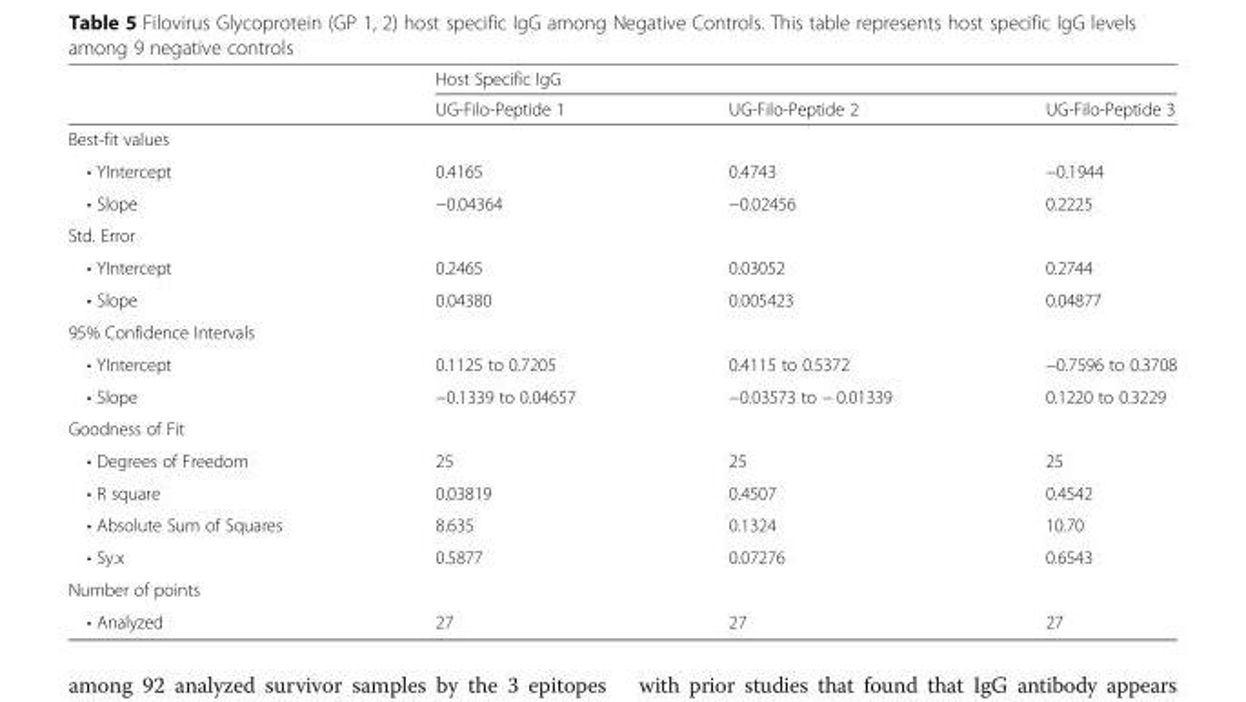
<table><thead><tr><td rowspan="2"></td><td colspan="3">Host Specific IgG</td></tr><tr><td>UG-Filo-Peptide 1</td><td>UG-Filo-Peptide 2</td><td>UG-Filo-Peptide 3</td></tr></thead><tbody><tr><td colspan="4">Best-fit values</td></tr><tr><td>• YIntercept</td><td>0.4165</td><td>0.4743</td><td>−0.1944</td></tr><tr><td>• Slope</td><td>−0.04364</td><td>−0.02456</td><td>0.2225</td></tr><tr><td colspan="4">Std. Error</td></tr><tr><td>• YIntercept</td><td>0.2465</td><td>0.03052</td><td>0.2744</td></tr><tr><td>• Slope</td><td>0.04380</td><td>0.005423</td><td>0.04877</td></tr><tr><td colspan="4">95% Confidence Intervals</td></tr><tr><td>• YIntercept</td><td>0.1125 to 0.7205</td><td>0.4115 to 0.5372</td><td>−0.7596 to 0.3708</td></tr><tr><td>• Slope</td><td>−0.1339 to 0.04657</td><td>−0.03573 to − 0.01339</td><td>0.1220 to 0.3229</td></tr><tr><td colspan="4">Goodness of Fit</td></tr><tr><td>• Degrees of Freedom</td><td>25</td><td>25</td><td>25</td></tr><tr><td>• R square</td><td>0.03819</td><td>0.4507</td><td>0.4542</td></tr><tr><td>• Absolute Sum of Squares</td><td>8.635</td><td>0.1324</td><td>10.70</td></tr><tr><td>• Sy.x</td><td>0.5877</td><td>0.07276</td><td>0.6543</td></tr><tr><td colspan="4">Number of points</td></tr><tr><td>• Analyzed</td><td>27</td><td>27</td><td>27</td></tr></tbody></table>